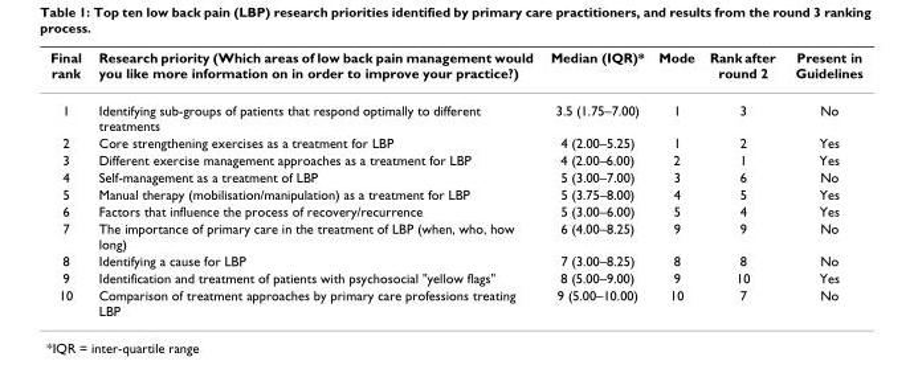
<table><thead><tr><td>Final rank</td><td>Research priority (Which areas of low back pain management would you like more information on in order to improve your practice?)</td><td>Median (IQR)*</td><td>Mode</td><td>Rank after round 2</td><td>Present in Guidelines</td></tr></thead><tbody><tr><td>1</td><td>Identifying sub-groups of patients that respond optimally to different treatments</td><td>3.5 (1.75–7.00)</td><td>1</td><td>3</td><td>No</td></tr><tr><td>2</td><td>Core strengthening exercises as a treatment for LBP</td><td>4 (2.00–5.25)</td><td>1</td><td>2</td><td>Yes</td></tr><tr><td>3</td><td>Different exercise management approaches as a treatment for LBP</td><td>4 (2.00–6.00)</td><td>2</td><td>1</td><td>Yes</td></tr><tr><td>4</td><td>Self-management as a treatment of LBP</td><td>5 (3.00–7.00)</td><td>3</td><td>6</td><td>No</td></tr><tr><td>5</td><td>Manual therapy (mobilisation/manipulation) as a treatment for LBP</td><td>5 (3.75–8.00)</td><td>4</td><td>5</td><td>Yes</td></tr><tr><td>6</td><td>Factors that influence the process of recovery/recurrence</td><td>5 (3.00–6.00)</td><td>5</td><td>4</td><td>Yes</td></tr><tr><td>7</td><td>The importance of primary care in the treatment of LBP (when, who, how long)</td><td>6 (4.00–8.25)</td><td>9</td><td>9</td><td>No</td></tr><tr><td>8</td><td>Identifying a cause for LBP</td><td>7 (3.00–8.25)</td><td>8</td><td>8</td><td>No</td></tr><tr><td>9</td><td>Identification and treatment of patients with psychosocial &quot;yellow flags&quot;</td><td>8 (5.00–9.00)</td><td>9</td><td>10</td><td>Yes</td></tr><tr><td>10</td><td>Comparison of treatment approaches by primary care professions treating LBP</td><td>9 (5.00–10.00)</td><td>10</td><td>7</td><td>No</td></tr></tbody></table>